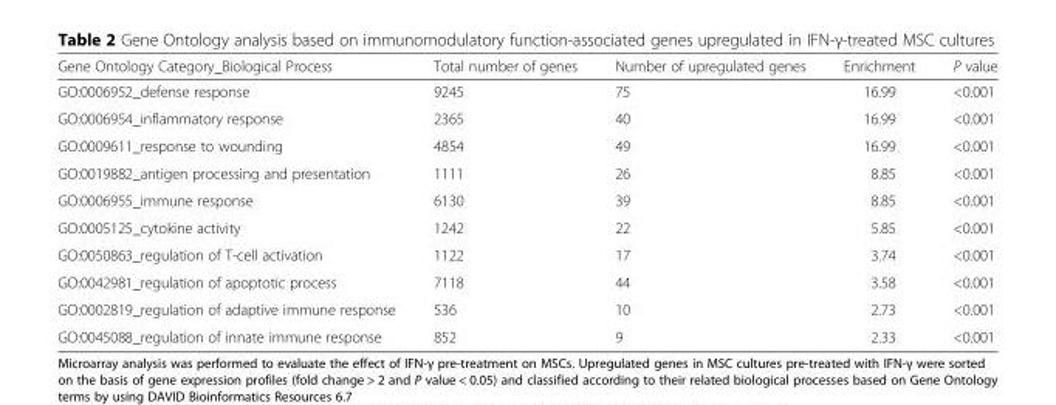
<table><thead><tr><td>Gene Ontology Category_Biological Process</td><td>Total number of genes</td><td>Number of upregulated genes</td><td>Enrichment</td><td>P value</td></tr></thead><tbody><tr><td>GO:0006952_defense response</td><td>9245</td><td>75</td><td>16.99</td><td>&lt;0.001</td></tr><tr><td>GO:0006954_inflammatory response</td><td>2365</td><td>40</td><td>16.99</td><td>&lt;0.001</td></tr><tr><td>GO:0009611_response to wounding</td><td>4854</td><td>49</td><td>16.99</td><td>&lt;0.001</td></tr><tr><td>GO:0019882_antigen processing and presentation</td><td>1111</td><td>26</td><td>8.85</td><td>&lt;0.001</td></tr><tr><td>GO:0006955_immune response</td><td>6130</td><td>39</td><td>8.85</td><td>&lt;0.001</td></tr><tr><td>GO:0005125_cytokine activity</td><td>1242</td><td>22</td><td>5.85</td><td>&lt;0.001</td></tr><tr><td>GO:0050863_regulation of T-cell activation</td><td>1122</td><td>17</td><td>3.74</td><td>&lt;0.001</td></tr><tr><td>GO:0042981_regulation of apoptotic process</td><td>7118</td><td>44</td><td>3.58</td><td>&lt;0.001</td></tr><tr><td>GO:0002819_regulation of adaptive immune response</td><td>536</td><td>10</td><td>2.73</td><td>&lt;0.001</td></tr><tr><td>GO:0045088_regulation of innate immune response</td><td>852</td><td>9</td><td>2.33</td><td>&lt;0.001</td></tr></tbody></table>